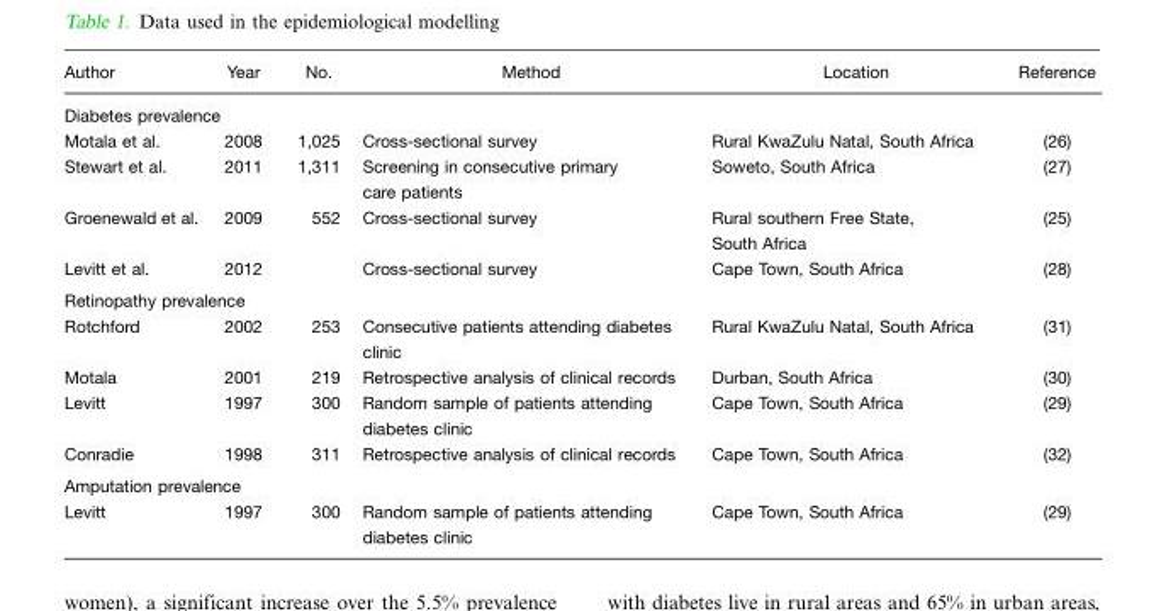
<table><thead><tr><td>Author</td><td>Year</td><td>No.</td><td>Method</td><td>Location</td><td>Reference</td></tr></thead><tbody><tr><td colspan="6">Diabetes prevalence</td></tr><tr><td>Motala et al.</td><td>2008</td><td>1,025</td><td>Cross-sectional survey</td><td>Rural KwaZulu Natal, South Africa</td><td>(26)</td></tr><tr><td>Stewart et al.</td><td>2011</td><td>1,311</td><td>Screening in consecutive primary care patients</td><td>Soweto, South Africa</td><td>(27)</td></tr><tr><td>Groenewald et al.</td><td>2009</td><td>552</td><td>Cross-sectional survey</td><td>Rural southern Free State, South Africa</td><td>(25)</td></tr><tr><td>Levitt et al.</td><td>2012</td><td></td><td>Cross-sectional survey</td><td>Cape Town, South Africa</td><td>(28)</td></tr><tr><td colspan="6">Retinopathy prevalence</td></tr><tr><td>Rotchford</td><td>2002</td><td>253</td><td>Consecutive patients attending diabetes clinic</td><td>Rural KwaZulu Natal, South Africa</td><td>(31)</td></tr><tr><td>Motala</td><td>2001</td><td>219</td><td>Retrospective analysis of clinical records</td><td>Durban, South Africa</td><td>(30)</td></tr><tr><td>Levitt</td><td>1997</td><td>300</td><td>Random sample of patients attending diabetes clinic</td><td>Cape Town, South Africa</td><td>(29)</td></tr><tr><td>Conradie</td><td>1998</td><td>311</td><td>Retrospective analysis of clinical records</td><td>Cape Town, South Africa</td><td>(32)</td></tr><tr><td colspan="6">Amputation prevalence</td></tr><tr><td>Levitt</td><td>1997</td><td>300</td><td>Random sample of patients attending diabetes clinic</td><td>Cape Town, South Africa</td><td>(29)</td></tr></tbody></table>